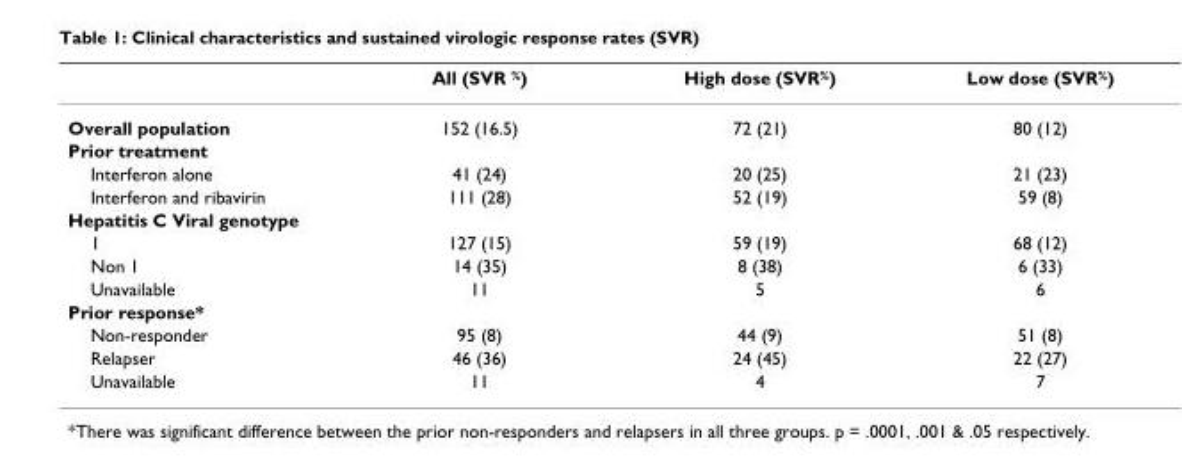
<table><thead><tr><td></td><td>All (SVR <sup>%</sup>)</td><td>High dose (SVR<sup>%</sup>)</td><td>Low dose (SVR<sup>%</sup>)</td></tr></thead><tbody><tr><td>Overall population</td><td>152 (16.5)</td><td>72 (21)</td><td>80 (12)</td></tr><tr><td colspan="4">Prior treatment</td></tr><tr><td>Interferon alone</td><td>41 (24)</td><td>20 (25)</td><td>21 (23)</td></tr><tr><td>Interferon and ribavirin</td><td>111 (28)</td><td>52 (19)</td><td>59 (8)</td></tr><tr><td colspan="4">Hepatitis C Viral genotype</td></tr><tr><td>1</td><td>127 (15)</td><td>59 (19)</td><td>68 (12)</td></tr><tr><td>Non 1</td><td>14 (35)</td><td>8 (38)</td><td>6 (33)</td></tr><tr><td>Unavailable</td><td>11</td><td>5</td><td>6</td></tr><tr><td colspan="4">Prior response*</td></tr><tr><td>Non-responder</td><td>95 (8)</td><td>44 (9)</td><td>51 (8)</td></tr><tr><td>Relapser</td><td>46 (36)</td><td>24 (45)</td><td>22 (27)</td></tr><tr><td>Unavailable</td><td>11</td><td>4</td><td>7</td></tr></tbody></table>